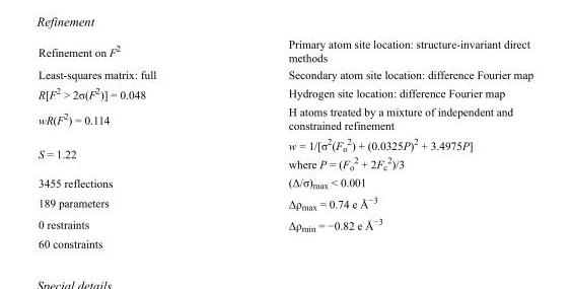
<table><tbody><tr><td>Refinement on F<sup>2</sup></td><td>Primary atom site location: structure-invariant direct methods</td></tr><tr><td>Least-squares matrix: full</td><td>Secondary atom site location: difference Fourier map</td></tr><tr><td>R[F<sup>2</sup> &gt; 2σ(F<sup>2</sup>)] = 0.048</td><td>Hydrogen site location: difference Fourier map</td></tr><tr><td>wR(F<sup>2</sup>) = 0.114</td><td>H atoms treated by a mixture of independent and constrained refinement</td></tr><tr><td>S = 1.22</td><td>w = 1/[σ<sup>2</sup>(F<sub>o</sub> <sup>2</sup>) + (0.0325P)<sup>2</sup> + 3.4975P] where P = (F<sub>o</sub> <sup>2</sup> + 2F<sub>c</sub> <sup>2</sup>)/3</td></tr><tr><td>3455 reflections</td><td>(Δ/σ)<sub>max</sub> &lt; 0.001</td></tr><tr><td>189 parameters</td><td>Δρ<sub>max</sub> = 0.74 e Å<sup>−3</sup></td></tr><tr><td>0 restraints</td><td>Δρ<sub>min</sub> = −0.82 e Å<sup>−3</sup></td></tr><tr><td>60 constraints</td><td></td></tr></tbody></table>